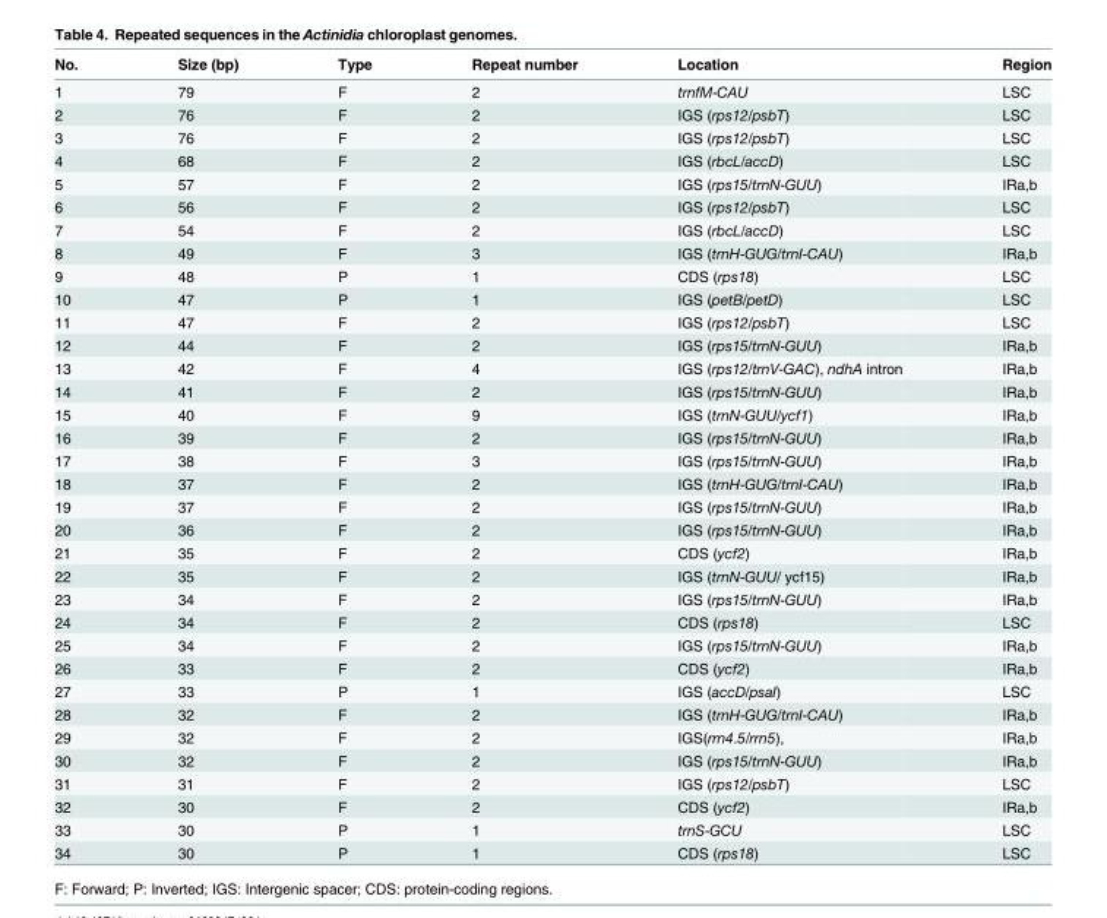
<table><thead><tr><td>No.</td><td>Size (bp)</td><td>Type</td><td>Repeat number</td><td>Location</td><td>Region</td></tr></thead><tbody><tr><td>1</td><td>79</td><td>F</td><td>2</td><td>trnfM-CAU</td><td>LSC</td></tr><tr><td>2</td><td>76</td><td>F</td><td>2</td><td>IGS (rps12/psbT)</td><td>LSC</td></tr><tr><td>3</td><td>76</td><td>F</td><td>2</td><td>IGS (rps12/psbT)</td><td>LSC</td></tr><tr><td>4</td><td>68</td><td>F</td><td>2</td><td>IGS (rbcL/accD)</td><td>LSC</td></tr><tr><td>5</td><td>57</td><td>F</td><td>2</td><td>IGS (rps15/trnN-GUU)</td><td>IRa,b</td></tr><tr><td>6</td><td>56</td><td>F</td><td>2</td><td>IGS (rps12/psbT)</td><td>LSC</td></tr><tr><td>7</td><td>54</td><td>F</td><td>2</td><td>IGS (rbcL/accD)</td><td>LSC</td></tr><tr><td>8</td><td>49</td><td>F</td><td>3</td><td>IGS (trnH-GUG/trnI-CAU)</td><td>IRa,b</td></tr><tr><td>9</td><td>48</td><td>P</td><td>1</td><td>CDS (rps18)</td><td>LSC</td></tr><tr><td>10</td><td>47</td><td>P</td><td>1</td><td>IGS (petB/petD)</td><td>LSC</td></tr><tr><td>11</td><td>47</td><td>F</td><td>2</td><td>IGS (rps12/psbT)</td><td>LSC</td></tr><tr><td>12</td><td>44</td><td>F</td><td>2</td><td>IGS (rps15/trnN-GUU)</td><td>IRa,b</td></tr><tr><td>13</td><td>42</td><td>F</td><td>4</td><td>IGS (rps12/trnV-GAC), ndhA intron</td><td>IRa,b</td></tr><tr><td>14</td><td>41</td><td>F</td><td>2</td><td>IGS (rps15/trnN-GUU)</td><td>IRa,b</td></tr><tr><td>15</td><td>40</td><td>F</td><td>9</td><td>IGS (trnN-GUU/ycf1)</td><td>IRa,b</td></tr><tr><td>16</td><td>39</td><td>F</td><td>2</td><td>IGS (rps15/trnN-GUU)</td><td>IRa,b</td></tr><tr><td>17</td><td>38</td><td>F</td><td>3</td><td>IGS (rps15/trnN-GUU)</td><td>IRa,b</td></tr><tr><td>18</td><td>37</td><td>F</td><td>2</td><td>IGS (trnH-GUG/trnI-CAU)</td><td>IRa,b</td></tr><tr><td>19</td><td>37</td><td>F</td><td>2</td><td>IGS (rps15/trnN-GUU)</td><td>IRa,b</td></tr><tr><td>20</td><td>36</td><td>F</td><td>2</td><td>IGS (rps15/trnN-GUU)</td><td>IRa,b</td></tr><tr><td>21</td><td>35</td><td>F</td><td>2</td><td>CDS (ycf2)</td><td>IRa,b</td></tr><tr><td>22</td><td>35</td><td>F</td><td>2</td><td>IGS (trnN-GUU/ ycf15)</td><td>IRa,b</td></tr><tr><td>23</td><td>34</td><td>F</td><td>2</td><td>IGS (rps15/trnN-GUU)</td><td>IRa,b</td></tr><tr><td>24</td><td>34</td><td>F</td><td>2</td><td>CDS (rps18)</td><td>LSC</td></tr><tr><td>25</td><td>34</td><td>F</td><td>2</td><td>IGS (rps15/trnN-GUU)</td><td>IRa,b</td></tr><tr><td>26</td><td>33</td><td>F</td><td>2</td><td>CDS (ycf2)</td><td>IRa,b</td></tr><tr><td>27</td><td>33</td><td>P</td><td>1</td><td>IGS (accD/psaI)</td><td>LSC</td></tr><tr><td>28</td><td>32</td><td>F</td><td>2</td><td>IGS (trnH-GUG/trnI-CAU)</td><td>IRa,b</td></tr><tr><td>29</td><td>32</td><td>F</td><td>2</td><td>IGS(rrn4.5/rrn5),</td><td>IRa,b</td></tr><tr><td>30</td><td>32</td><td>F</td><td>2</td><td>IGS (rps15/trnN-GUU)</td><td>IRa,b</td></tr><tr><td>31</td><td>31</td><td>F</td><td>2</td><td>IGS (rps12/psbT)</td><td>LSC</td></tr><tr><td>32</td><td>30</td><td>F</td><td>2</td><td>CDS (ycf2)</td><td>IRa,b</td></tr><tr><td>33</td><td>30</td><td>P</td><td>1</td><td>trnS-GCU</td><td>LSC</td></tr><tr><td>34</td><td>30</td><td>P</td><td>1</td><td>CDS (rps18)</td><td>LSC</td></tr></tbody></table>